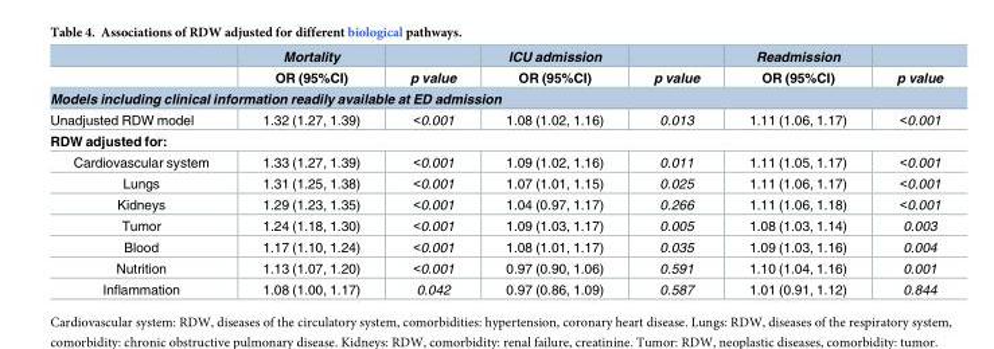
<table><thead><tr><td rowspan="2"></td><td rowspan="2">Mortality OR (95%CI)</td><td rowspan="2">p value</td><td rowspan="2">ICU admission OR (95%CI)</td><td rowspan="2">p value</td><td rowspan="2">Readmission OR (95%CI)</td><td rowspan="2">p value</td></tr><tr></tr><tr><td colspan="7">Models including clinical information readily available at ED admission</td></tr></thead><tbody><tr><td>Unadjusted RDW model</td><td>1.32 (1.27, 1.39)</td><td>&lt;0.001</td><td>1.08 (1.02, 1.16)</td><td>0.013</td><td>1.11 (1.06, 1.17)</td><td>&lt;0.001</td></tr><tr><td colspan="7">RDW adjusted for:</td></tr><tr><td>Cardiovascular system</td><td>1.33 (1.27, 1.39)</td><td>&lt;0.001</td><td>1.09 (1.02, 1.16)</td><td>0.011</td><td>1.11 (1.05, 1.17)</td><td>&lt;0.001</td></tr><tr><td>Lungs</td><td>1.31 (1.25, 1.38)</td><td>&lt;0.001</td><td>1.07 (1.01, 1.15)</td><td>0.025</td><td>1.11 (1.06, 1.17)</td><td>&lt;0.001</td></tr><tr><td>Kidneys</td><td>1.29 (1.23, 1.35)</td><td>&lt;0.001</td><td>1.04 (0.97, 1.17)</td><td>0.266</td><td>1.11 (1.06, 1.18)</td><td>&lt;0.001</td></tr><tr><td>Tumor</td><td>1.24 (1.18, 1.30)</td><td>&lt;0.001</td><td>1.09 (1.03, 1.17)</td><td>0.005</td><td>1.08 (1.03, 1.14)</td><td>0.003</td></tr><tr><td>Blood</td><td>1.17 (1.10, 1.24)</td><td>&lt;0.001</td><td>1.08 (1.01, 1.17)</td><td>0.035</td><td>1.09 (1.03, 1.16)</td><td>0.004</td></tr><tr><td>Nutrition</td><td>1.13 (1.07, 1.20)</td><td>&lt;0.001</td><td>0.97 (0.90, 1.06)</td><td>0.591</td><td>1.10 (1.04, 1.16)</td><td>0.001</td></tr><tr><td>Inflammation</td><td>1.08 (1.00, 1.17)</td><td>0.042</td><td>0.97 (0.86, 1.09)</td><td>0.587</td><td>1.01 (0.91, 1.12)</td><td>0.844</td></tr></tbody></table>